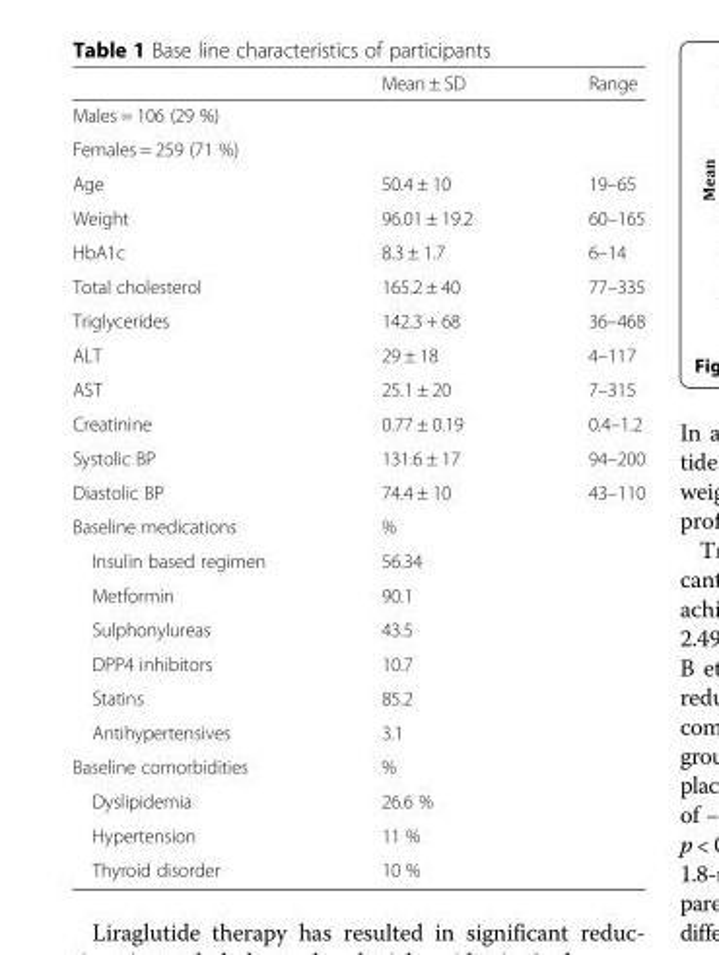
<table><thead><tr><td></td><td>Mean ± SD</td><td>Range</td></tr></thead><tbody><tr><td colspan="3">Males = 106 (29 %)</td></tr><tr><td colspan="3">Females = 259 (71 %)</td></tr><tr><td>Age</td><td>50.4 ± 10</td><td>19–65</td></tr><tr><td>Weight</td><td>96.01 ± 19.2</td><td>60–165</td></tr><tr><td>HbA1c</td><td>8.3 ± 1.7</td><td>6–14</td></tr><tr><td>Total cholesterol</td><td>165.2 ± 40</td><td>77–335</td></tr><tr><td>Triglycerides</td><td>142.3 + 68</td><td>36–468</td></tr><tr><td>ALT</td><td>29 ± 18</td><td>4–117</td></tr><tr><td>AST</td><td>25.1 ± 20</td><td>7–315</td></tr><tr><td>Creatinine</td><td>0.77 ± 0.19</td><td>0.4–1.2</td></tr><tr><td>Systolic BP</td><td>131.6 ± 17</td><td>94–200</td></tr><tr><td>Diastolic BP</td><td>74.4 ± 10</td><td>43–110</td></tr><tr><td>Baseline medications</td><td colspan="2">%</td></tr><tr><td>Insulin based regimen</td><td colspan="2">56.34</td></tr><tr><td>Metformin</td><td colspan="2">90.1</td></tr><tr><td>Sulphonylureas</td><td colspan="2">43.5</td></tr><tr><td>DPP4 inhibitors</td><td colspan="2">10.7</td></tr><tr><td>Statins</td><td colspan="2">85.2</td></tr><tr><td>Antihypertensives</td><td colspan="2">3.1</td></tr><tr><td>Baseline comorbidities</td><td colspan="2">%</td></tr><tr><td>Dyslipidemia</td><td colspan="2">26.6 %</td></tr><tr><td>Hypertension</td><td colspan="2">11 %</td></tr><tr><td>Thyroid disorder</td><td colspan="2">10 %</td></tr></tbody></table>